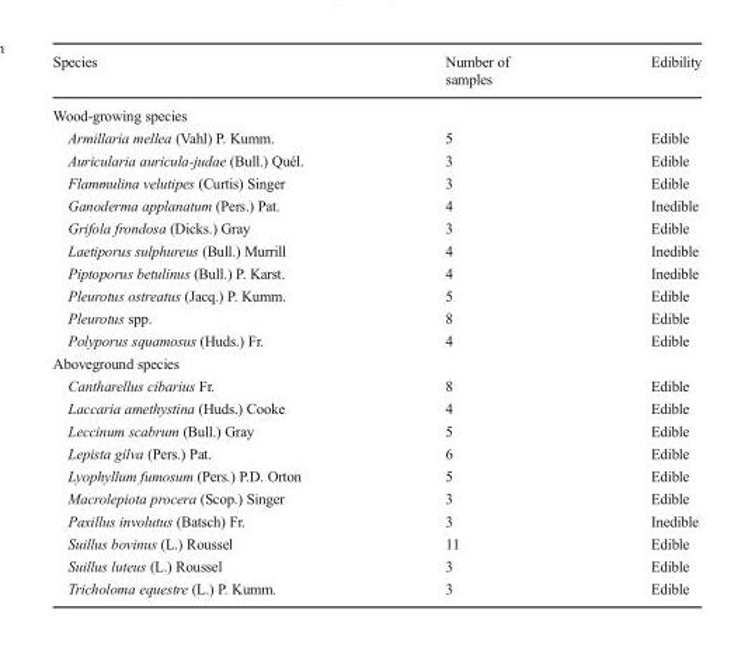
<table><thead><tr><td>Species</td><td>Number of samples</td><td>Edibility</td></tr></thead><tbody><tr><td colspan="3">Wood-growing species</td></tr><tr><td>Armillaria mellea (Vahl) P. Kumm.</td><td>5</td><td>Edible</td></tr><tr><td>Auricularia auricula-judae (Bull.) Quél.</td><td>3</td><td>Edible</td></tr><tr><td>Flammulina velutipes (Curtis) Singer</td><td>3</td><td>Edible</td></tr><tr><td>Ganoderma applanatum (Pers.) Pat.</td><td>4</td><td>Inedible</td></tr><tr><td>Grifola frondosa (Dicks.) Gray</td><td>3</td><td>Edible</td></tr><tr><td>Laetiporus sulphureus (Bull.) Murrill</td><td>4</td><td>Inedible</td></tr><tr><td>Piptoporus betulinus (Bull.) P. Karst.</td><td>4</td><td>Inedible</td></tr><tr><td>Pleurotus ostreatus (Jacq.) P. Kumm.</td><td>5</td><td>Edible</td></tr><tr><td>Pleurotus spp.</td><td>8</td><td>Edible</td></tr><tr><td>Polyporus squamosus (Huds.) Fr.</td><td>4</td><td>Edible</td></tr><tr><td colspan="3">Aboveground species</td></tr><tr><td>Cantharellus cibarius Fr.</td><td>8</td><td>Edible</td></tr><tr><td>Laccaria amethystina (Huds.) Cooke</td><td>4</td><td>Edible</td></tr><tr><td>Leccinum scabrum (Bull.) Gray</td><td>5</td><td>Edible</td></tr><tr><td>Lepista gilva (Pers.) Pat.</td><td>6</td><td>Edible</td></tr><tr><td>Lyophyllum fumosum (Pers.) P.D. Orton</td><td>5</td><td>Edible</td></tr><tr><td>Macrolepiota procera (Scop.) Singer</td><td>3</td><td>Edible</td></tr><tr><td>Paxillus involutus (Batsch) Fr.</td><td>3</td><td>Inedible</td></tr><tr><td>Suillus bovinus (L.) Roussel</td><td>11</td><td>Edible</td></tr><tr><td>Suillus luteus (L.) Roussel</td><td>3</td><td>Edible</td></tr><tr><td>Tricholoma equestre (L.) P. Kumm.</td><td>3</td><td>Edible</td></tr></tbody></table>